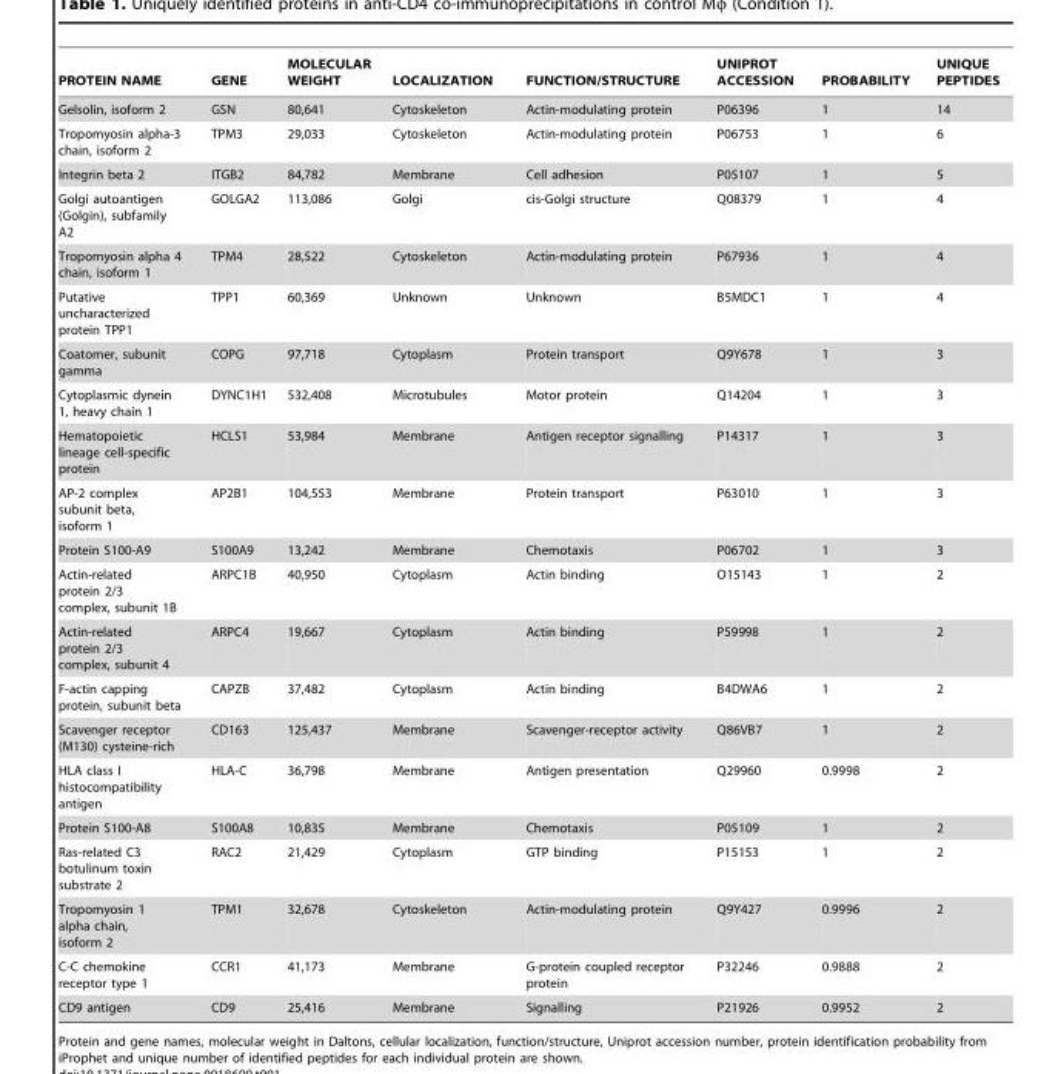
<table><thead><tr><td>PROTEIN NAME</td><td>GENE</td><td>MOLECULAR WEIGHT</td><td>LOCALIZATION</td><td>FUNCTION/STRUCTURE</td><td>UNIPROT ACCESSION</td><td>PROBABILITY</td><td>UNIQUE PEPTIDES</td></tr></thead><tbody><tr><td>Gelsolin, isoform 2</td><td>GSN</td><td>80,641</td><td>Cytoskeleton</td><td>Actin-modulating protein</td><td>P06396</td><td>1</td><td>14</td></tr><tr><td>Tropomyosin alpha-3 chain, isoform 2</td><td>TPM3</td><td>29,033</td><td>Cytoskeleton</td><td>Actin-modulating protein</td><td>P06753</td><td>1</td><td>6</td></tr><tr><td>Integrin beta 2</td><td>ITGB2</td><td>84,782</td><td>Membrane</td><td>Cell adhesion</td><td>P05107</td><td>1</td><td>5</td></tr><tr><td>Golgi autoantigen (Golgin), subfamily A2</td><td>GOLGA2</td><td>113,086</td><td>Golgi</td><td>cis-Golgi structure</td><td>Q08379</td><td>1</td><td>4</td></tr><tr><td>Tropomyosin alpha 4 chain, isoform 1</td><td>TPM4</td><td>28,522</td><td>Cytoskeleton</td><td>Actin-modulating protein</td><td>P67936</td><td>1</td><td>4</td></tr><tr><td>Putative uncharacterized protein TPP1</td><td>TPP1</td><td>60,369</td><td>Unknown</td><td>Unknown</td><td>B5MDC1</td><td>1</td><td>4</td></tr><tr><td>Coatomer, subunit gamma</td><td>COPG</td><td>97,718</td><td>Cytoplasm</td><td>Protein transport</td><td>Q9Y678</td><td>1</td><td>3</td></tr><tr><td>Cytoplasmic dynein 1, heavy chain 1</td><td>DYNC1H1</td><td>532,408</td><td>Microtubules</td><td>Motor protein</td><td>Q14204</td><td>1</td><td>3</td></tr><tr><td>Hematopoietic lineage cell-specific protein</td><td>HCLS1</td><td>53,984</td><td>Membrane</td><td>Antigen receptor signalling</td><td>P14317</td><td>1</td><td>3</td></tr><tr><td>AP-2 complex subunit beta, isoform 1</td><td>AP2B1</td><td>104,553</td><td>Membrane</td><td>Protein transport</td><td>P63010</td><td>1</td><td>3</td></tr><tr><td>Protein S100-A9</td><td>S100A9</td><td>13,242</td><td>Membrane</td><td>Chemotaxis</td><td>P06702</td><td>1</td><td>3</td></tr><tr><td>Actin-related protein 2/3 complex, subunit 1B</td><td>ARPC1B</td><td>40,950</td><td>Cytoplasm</td><td>Actin binding</td><td>O15143</td><td>1</td><td>2</td></tr><tr><td>Actin-related protein 2/3 complex, subunit 4</td><td>ARPC4</td><td>19,667</td><td>Cytoplasm</td><td>Actin binding</td><td>P59998</td><td>1</td><td>2</td></tr><tr><td>F-actin capping protein, subunit beta</td><td>CAPZB</td><td>37,482</td><td>Cytoplasm</td><td>Actin binding</td><td>B4DWA6</td><td>1</td><td>2</td></tr><tr><td>Scavenger receptor (M130) cysteine-rich</td><td>CD163</td><td>125,437</td><td>Membrane</td><td>Scavenger-receptor activity</td><td>Q86VB7</td><td>1</td><td>2</td></tr><tr><td>HLA class I histocompatibility antigen</td><td>HLA-C</td><td>36,798</td><td>Membrane</td><td>Antigen presentation</td><td>Q29960</td><td>0.9998</td><td>2</td></tr><tr><td>Protein S100-A8</td><td>S100A8</td><td>10,835</td><td>Membrane</td><td>Chemotaxis</td><td>P05109</td><td>1</td><td>2</td></tr><tr><td>Ras-related C3 botulinum toxin substrate 2</td><td>RAC2</td><td>21,429</td><td>Cytoplasm</td><td>GTP binding</td><td>P15153</td><td>1</td><td>2</td></tr><tr><td>Tropomyosin 1 alpha chain, isoform 2</td><td>TPM1</td><td>32,678</td><td>Cytoskeleton</td><td>Actin-modulating protein</td><td>Q9Y427</td><td>0.9996</td><td>2</td></tr><tr><td>C-C chemokine receptor type 1</td><td>CCR1</td><td>41,173</td><td>Membrane</td><td>G-protein coupled receptor protein</td><td>P32246</td><td>0.9888</td><td>2</td></tr><tr><td>CD9 antigen</td><td>CD9</td><td>25,416</td><td>Membrane</td><td>Signalling</td><td>P21926</td><td>0.9952</td><td>2</td></tr></tbody></table>